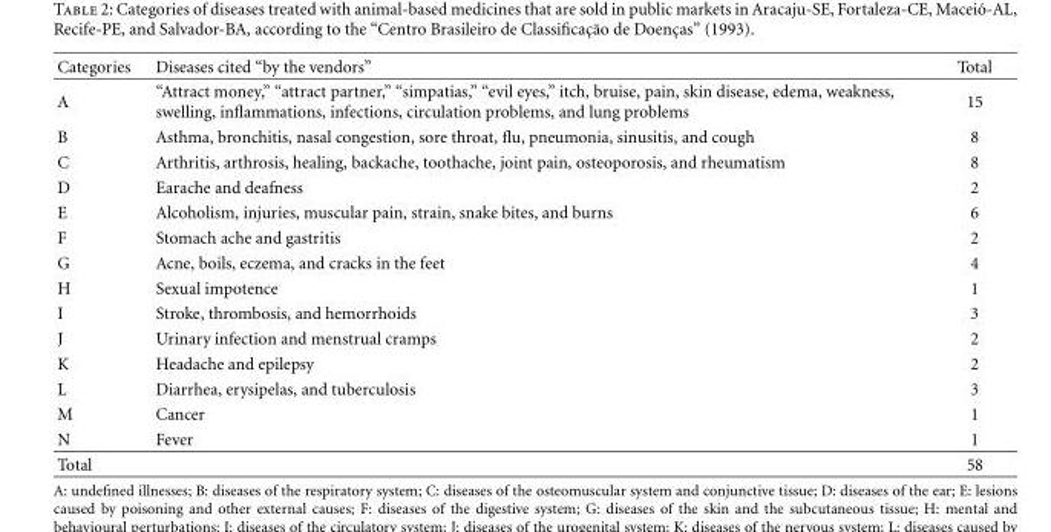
<table><thead><tr><td>Categories</td><td>Diseases cited “by the vendors”</td><td>Total</td></tr></thead><tbody><tr><td>A</td><td>“Attract money,” “attract partner,” “simpatias,” “evil eyes,” itch, bruise, pain, skin disease, edema, weakness, swelling, inflammations, infections, circulation problems, and lung problems</td><td>15</td></tr><tr><td>B</td><td>Asthma, bronchitis, nasal congestion, sore throat, flu, pneumonia, sinusitis, and cough</td><td>8</td></tr><tr><td>C</td><td>Arthritis, arthrosis, healing, backache, toothache, joint pain, osteoporosis, and rheumatism</td><td>8</td></tr><tr><td>D</td><td>Earache and deafness</td><td>2</td></tr><tr><td>E</td><td>Alcoholism, injuries, muscular pain, strain, snake bites, and burns</td><td>6</td></tr><tr><td>F</td><td>Stomach ache and gastritis</td><td>2</td></tr><tr><td>G</td><td>Acne, boils, eczema, and cracks in the feet</td><td>4</td></tr><tr><td>H</td><td>Sexual impotence</td><td>1</td></tr><tr><td>I</td><td>Stroke, thrombosis, and hemorrhoids</td><td>3</td></tr><tr><td>J</td><td>Urinary infection and menstrual cramps</td><td>2</td></tr><tr><td>K</td><td>Headache and epilepsy</td><td>2</td></tr><tr><td>L</td><td>Diarrhea, erysipelas, and tuberculosis</td><td>3</td></tr><tr><td>M</td><td>Cancer</td><td>1</td></tr><tr><td>N</td><td>Fever</td><td>1</td></tr><tr><td>Total</td><td></td><td>58</td></tr></tbody></table>